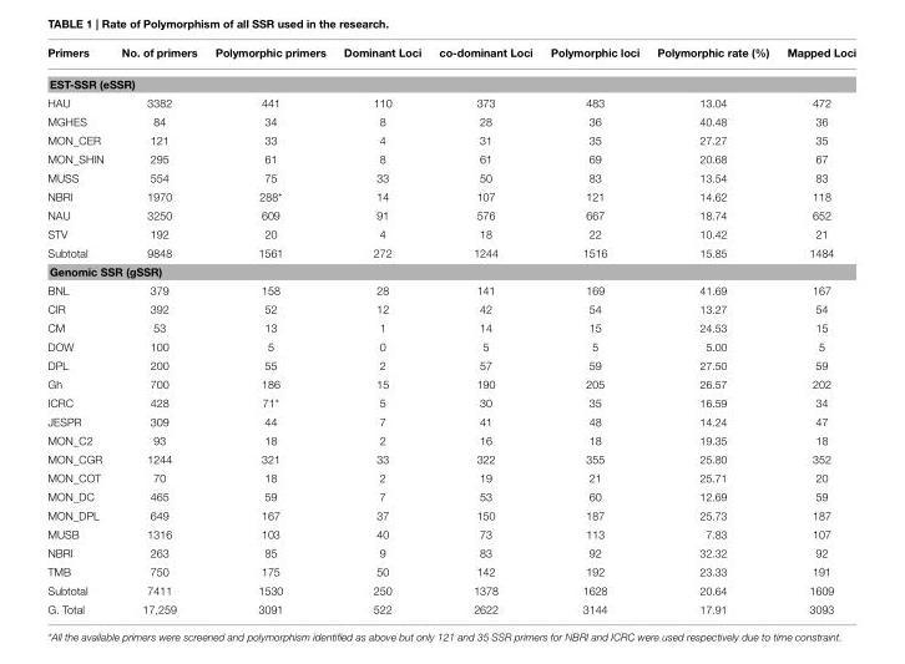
<table><thead><tr><td>Primers</td><td>No. of primers</td><td>Polymorphic primers</td><td>Dominant Loci</td><td>co-dominant Loci</td><td>Polymorphic loci</td><td>Polymorphic rate (%)</td><td>Mapped Loci</td></tr></thead><tbody><tr><td colspan="8">EST-SSR (eSSR)</td></tr><tr><td>HAU</td><td>3382</td><td>441</td><td>110</td><td>373</td><td>483</td><td>13.04</td><td>472</td></tr><tr><td>MGHES</td><td>84</td><td>34</td><td>8</td><td>28</td><td>36</td><td>40.48</td><td>36</td></tr><tr><td>MON_CER</td><td>121</td><td>33</td><td>4</td><td>31</td><td>35</td><td>27.27</td><td>35</td></tr><tr><td>MON_SHIN</td><td>295</td><td>61</td><td>8</td><td>61</td><td>69</td><td>20.68</td><td>67</td></tr><tr><td>MUSS</td><td>554</td><td>75</td><td>33</td><td>50</td><td>83</td><td>13.54</td><td>83</td></tr><tr><td>NBRI</td><td>1970</td><td>288*</td><td>14</td><td>107</td><td>121</td><td>14.62</td><td>118</td></tr><tr><td>NAU</td><td>3250</td><td>609</td><td>91</td><td>576</td><td>667</td><td>18.74</td><td>652</td></tr><tr><td>STV</td><td>192</td><td>20</td><td>4</td><td>18</td><td>22</td><td>10.42</td><td>21</td></tr><tr><td>Subtotal</td><td>9848</td><td>1561</td><td>272</td><td>1244</td><td>1516</td><td>15.85</td><td>1484</td></tr><tr><td colspan="8">Genomic SSR (gSSR)</td></tr><tr><td>BNL</td><td>379</td><td>158</td><td>28</td><td>141</td><td>169</td><td>41.69</td><td>167</td></tr><tr><td>CIR</td><td>392</td><td>52</td><td>12</td><td>42</td><td>54</td><td>13.27</td><td>54</td></tr><tr><td>CM</td><td>53</td><td>13</td><td>1</td><td>14</td><td>15</td><td>24.53</td><td>15</td></tr><tr><td>DOW</td><td>100</td><td>5</td><td>0</td><td>5</td><td>5</td><td>5.00</td><td>5</td></tr><tr><td>DPL</td><td>200</td><td>55</td><td>2</td><td>57</td><td>59</td><td>27.50</td><td>59</td></tr><tr><td>Gh</td><td>700</td><td>186</td><td>15</td><td>190</td><td>205</td><td>26.57</td><td>202</td></tr><tr><td>ICRC</td><td>428</td><td>71*</td><td>5</td><td>30</td><td>35</td><td>16.59</td><td>34</td></tr><tr><td>JESPR</td><td>309</td><td>44</td><td>7</td><td>41</td><td>48</td><td>14.24</td><td>47</td></tr><tr><td>MON_C2</td><td>93</td><td>18</td><td>2</td><td>16</td><td>18</td><td>19.35</td><td>18</td></tr><tr><td>MON_CGR</td><td>1244</td><td>321</td><td>33</td><td>322</td><td>355</td><td>25.80</td><td>352</td></tr><tr><td>MON_COT</td><td>70</td><td>18</td><td>2</td><td>19</td><td>21</td><td>25.71</td><td>20</td></tr><tr><td>MON_DC</td><td>465</td><td>59</td><td>7</td><td>53</td><td>60</td><td>12.69</td><td>59</td></tr><tr><td>MON_DPL</td><td>649</td><td>167</td><td>37</td><td>150</td><td>187</td><td>25.73</td><td>187</td></tr><tr><td>MUSB</td><td>1316</td><td>103</td><td>40</td><td>73</td><td>113</td><td>7.83</td><td>107</td></tr><tr><td>NBRI</td><td>263</td><td>85</td><td>9</td><td>83</td><td>92</td><td>32.32</td><td>92</td></tr><tr><td>TMB</td><td>750</td><td>175</td><td>50</td><td>142</td><td>192</td><td>23.33</td><td>191</td></tr><tr><td>Subtotal</td><td>7411</td><td>1530</td><td>250</td><td>1378</td><td>1628</td><td>20.64</td><td>1609</td></tr><tr><td>G. Total</td><td>17,259</td><td>3091</td><td>522</td><td>2622</td><td>3144</td><td>17.91</td><td>3093</td></tr></tbody></table>